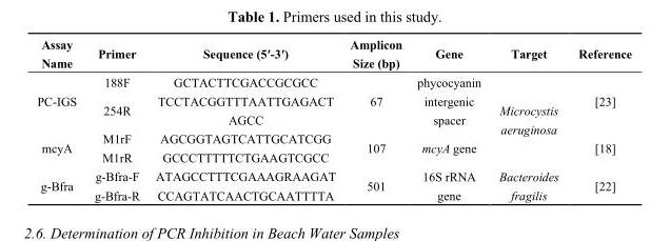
<table><thead><tr><td>Assay Name</td><td>Primer</td><td>Sequence (5′-3′)</td><td>Amplicon Size (bp)</td><td>Gene</td><td>Target</td><td>Reference</td></tr></thead><tbody><tr><td rowspan="2">PC-IGS</td><td>188F</td><td>GCTACTTCGACCGCGCC</td><td rowspan="2">67</td><td rowspan="2">phycocyanin intergenic spacer</td><td rowspan="4">Microcystis aeruginosa</td><td rowspan="2">[23]</td></tr><tr><td>254R</td><td>TCCTACGGTTTAATTGAGACT AGCC</td></tr><tr><td rowspan="2">mcyA</td><td>M1rF</td><td>AGCGGTAGTCATTGCATCGG</td><td rowspan="2">107</td><td rowspan="2">mcyA gene</td><td rowspan="2">[18]</td></tr><tr><td>M1rR</td><td>GCCCTTTTTCTGAAGTCGCC</td></tr><tr><td rowspan="2">g-Bfra</td><td>g-Bfra-F</td><td>ATAGCCTTTCGAAAGRAAGAT</td><td rowspan="2">501</td><td rowspan="2">16S rRNA gene</td><td rowspan="2">Bacteroides fragilis</td><td rowspan="2">[22]</td></tr><tr><td>g-Bfra-R</td><td>CCAGTATCAACTGCAATTTTA</td></tr></tbody></table>